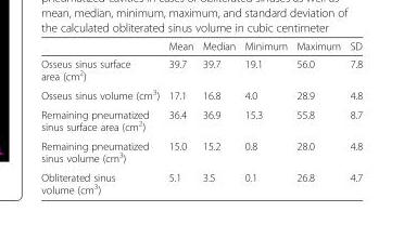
<table><thead><tr><td></td><td>Mean</td><td>Median</td><td>Minimum</td><td>Maximum</td><td>SD</td></tr></thead><tbody><tr><td>Osseus sinus surface area (cm<sup>2</sup>)</td><td>39.7</td><td>39.7</td><td>19.1</td><td>56.0</td><td>7.8</td></tr><tr><td>Osseus sinus volume (cm<sup>3</sup>)</td><td>17.1</td><td>16.8</td><td>4.0</td><td>28.9</td><td>4.8</td></tr><tr><td>Remaining pneumatized sinus surface area (cm<sup>2</sup>)</td><td>36.4</td><td>36.9</td><td>15.3</td><td>55.8</td><td>8.7</td></tr><tr><td>Remaining pneumatized sinus volume (cm<sup>3</sup>)</td><td>15.0</td><td>15.2</td><td>0.8</td><td>28.0</td><td>4.8</td></tr><tr><td>Obliterated sinus volume (cm<sup>3</sup>)</td><td>5.1</td><td>3.5</td><td>0.1</td><td>26.8</td><td>4.7</td></tr></tbody></table>